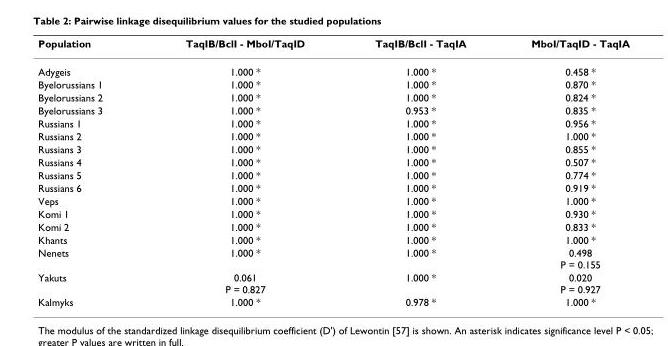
<table><thead><tr><td>Population</td><td>TaqIB/BclI - MboI/TaqID</td><td>TaqIB/BclI - TaqIA</td><td>MboI/TaqID - TaqIA</td></tr></thead><tbody><tr><td>Adygeis</td><td>1.000 *</td><td>1.000 *</td><td>0.458 *</td></tr><tr><td>Byelorussians 1</td><td>1.000 *</td><td>1.000 *</td><td>0.870 *</td></tr><tr><td>Byelorussians 2</td><td>1.000 *</td><td>1.000 *</td><td>0.824 *</td></tr><tr><td>Byelorussians 3</td><td>1.000 *</td><td>0.953 *</td><td>0.835 *</td></tr><tr><td>Russians 1</td><td>1.000 *</td><td>1.000 *</td><td>0.956 *</td></tr><tr><td>Russians 2</td><td>1.000 *</td><td>1.000 *</td><td>1.000 *</td></tr><tr><td>Russians 3</td><td>1.000 *</td><td>1.000 *</td><td>0.855 *</td></tr><tr><td>Russians 4</td><td>1.000 *</td><td>1.000 *</td><td>0.507 *</td></tr><tr><td>Russians 5</td><td>1.000 *</td><td>1.000 *</td><td>0.774 *</td></tr><tr><td>Russians 6</td><td>1.000 *</td><td>1.000 *</td><td>0.919 *</td></tr><tr><td>Veps</td><td>1.000 *</td><td>1.000 *</td><td>1.000 *</td></tr><tr><td>Komi 1</td><td>1.000 *</td><td>1.000 *</td><td>0.930 *</td></tr><tr><td>Komi 2</td><td>1.000 *</td><td>1.000 *</td><td>0.833 *</td></tr><tr><td>Khants</td><td>1.000 *</td><td>1.000 *</td><td>1.000 *</td></tr><tr><td>Nenets</td><td>1.000 *</td><td>1.000 *</td><td>0.498 P = 0.155</td></tr><tr><td>Yakuts</td><td>0.061 P = 0.827</td><td>1.000 *</td><td>0.020 P = 0.927</td></tr><tr><td>Kalmyks</td><td>1.000 *</td><td>0.978 *</td><td>1.000 *</td></tr></tbody></table>